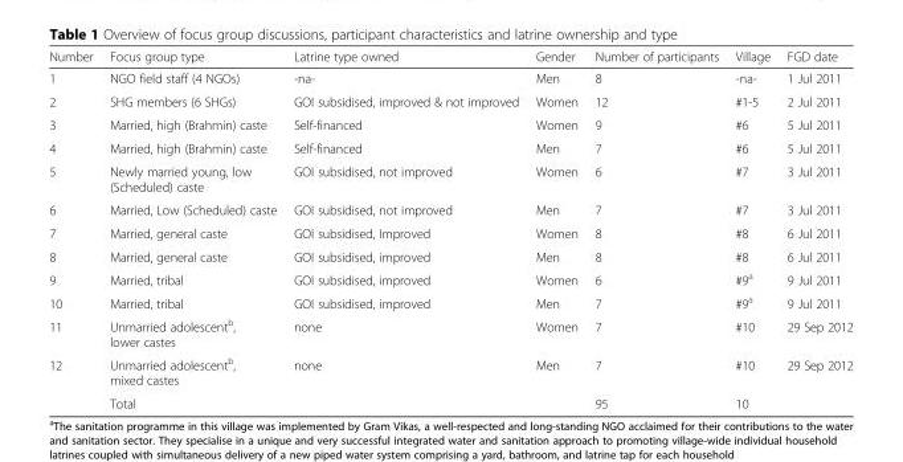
<table><thead><tr><td>Number</td><td>Focus group type</td><td>Latrine type owned</td><td>Gender</td><td>Number of participants</td><td>Village</td><td>FGD date</td></tr></thead><tbody><tr><td>1</td><td>NGO field staff (4 NGOs)</td><td>-na-</td><td>Men</td><td>8</td><td>-na-</td><td>1 Jul 2011</td></tr><tr><td>2</td><td>SHG members (6 SHGs)</td><td>GOI subsidised, improved &amp; not improved</td><td>Women</td><td>12</td><td>#1-5</td><td>2 Jul 2011</td></tr><tr><td>3</td><td>Married, high (Brahmin) caste</td><td>Self-financed</td><td>Women</td><td>9</td><td>#6</td><td>5 Jul 2011</td></tr><tr><td>4</td><td>Married, high (Brahmin) caste</td><td>Self-financed</td><td>Men</td><td>7</td><td>#6</td><td>5 Jul 2011</td></tr><tr><td>5</td><td>Newly married young, low (Scheduled) caste</td><td>GOI subsidised, not improved</td><td>Women</td><td>6</td><td>#7</td><td>3 Jul 2011</td></tr><tr><td>6</td><td>Married, Low (Scheduled) caste</td><td>GOI subsidised, not improved</td><td>Men</td><td>7</td><td>#7</td><td>3 Jul 2011</td></tr><tr><td>7</td><td>Married, general caste</td><td>GOI subsidised, Improved</td><td>Women</td><td>8</td><td>#8</td><td>6 Jul 2011</td></tr><tr><td>8</td><td>Married, general caste</td><td>GOI subsidised, improved</td><td>Men</td><td>8</td><td>#8</td><td>6 Jul 2011</td></tr><tr><td>9</td><td>Married, tribal</td><td>GOI subsidised, improved</td><td>Women</td><td>6</td><td>#9<sup>a</sup></td><td>9 Jul 2011</td></tr><tr><td>10</td><td>Married, tribal</td><td>GOI subsidised, improved</td><td>Men</td><td>7</td><td>#9<sup>a</sup></td><td>9 Jul 2011</td></tr><tr><td>11</td><td>Unmarried adolescent<sup>b</sup>, lower castes</td><td>none</td><td>Women</td><td>7</td><td>#10</td><td>29 Sep 2012</td></tr><tr><td rowspan="2">12</td><td>Unmarried adolescent<sup>b</sup>, mixed castes</td><td>none</td><td>Men</td><td>7</td><td>#10</td><td>29 Sep 2012</td></tr><tr><td>Total</td><td></td><td></td><td>95</td><td>10</td><td></td></tr></tbody></table>